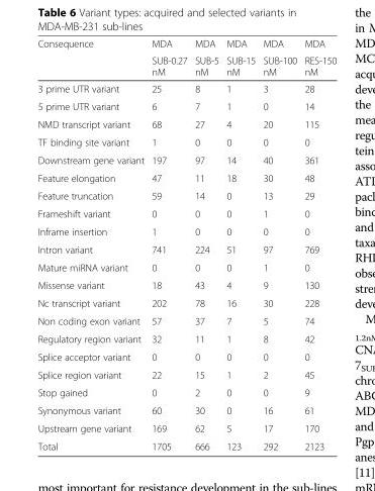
<table><thead><tr><td rowspan="2">Consequence</td><td rowspan="2">MDA SUB-0.27 nM</td><td rowspan="2">MDA SUB-5 nM</td><td rowspan="2">MDA SUB-15 nM</td><td rowspan="2">MDA SUB-100 nM</td><td rowspan="2">MDA RES-150 nM</td></tr><tr></tr></thead><tbody><tr><td>3 prime UTR variant</td><td>25</td><td>8</td><td>1</td><td>3</td><td>28</td></tr><tr><td>5 prime UTR variant</td><td>6</td><td>7</td><td>1</td><td>0</td><td>14</td></tr><tr><td>NMD transcript variant</td><td>68</td><td>27</td><td>4</td><td>20</td><td>115</td></tr><tr><td>TF binding site variant</td><td>1</td><td>0</td><td>0</td><td>0</td><td>0</td></tr><tr><td>Downstream gene variant</td><td>197</td><td>97</td><td>14</td><td>40</td><td>361</td></tr><tr><td>Feature elongation</td><td>47</td><td>11</td><td>18</td><td>30</td><td>48</td></tr><tr><td>Feature truncation</td><td>59</td><td>14</td><td>0</td><td>13</td><td>29</td></tr><tr><td>Frameshift variant</td><td>0</td><td>0</td><td>0</td><td>1</td><td>0</td></tr><tr><td>Inframe insertion</td><td>1</td><td>0</td><td>0</td><td>0</td><td>0</td></tr><tr><td>Intron variant</td><td>741</td><td>224</td><td>51</td><td>97</td><td>769</td></tr><tr><td>Mature miRNA variant</td><td>0</td><td>0</td><td>0</td><td>1</td><td>0</td></tr><tr><td>Missense variant</td><td>18</td><td>43</td><td>4</td><td>9</td><td>130</td></tr><tr><td>Nc transcript variant</td><td>202</td><td>78</td><td>16</td><td>30</td><td>228</td></tr><tr><td>Non coding exon variant</td><td>57</td><td>37</td><td>7</td><td>5</td><td>74</td></tr><tr><td>Regulatory region variant</td><td>32</td><td>11</td><td>1</td><td>8</td><td>42</td></tr><tr><td>Splice acceptor variant</td><td>0</td><td>0</td><td>0</td><td>0</td><td>0</td></tr><tr><td>Splice region variant</td><td>22</td><td>15</td><td>1</td><td>2</td><td>45</td></tr><tr><td>Stop gained</td><td>0</td><td>2</td><td>0</td><td>0</td><td>9</td></tr><tr><td>Synonymous variant</td><td>60</td><td>30</td><td>0</td><td>16</td><td>61</td></tr><tr><td>Upstream gene variant</td><td>169</td><td>62</td><td>5</td><td>17</td><td>170</td></tr><tr><td>Total</td><td>1705</td><td>666</td><td>123</td><td>292</td><td>2123</td></tr></tbody></table>